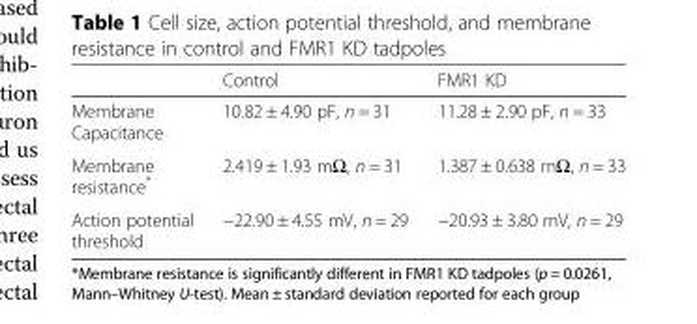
<table><thead><tr><td></td><td>Control</td><td>FMR1 KD</td></tr></thead><tbody><tr><td>Membrane Capacitance</td><td>10.82 ± 4.90 pF, n = 31</td><td>11.28 ± 2.90 pF, n = 33</td></tr><tr><td>Membrane resistance*</td><td>2.419 ± 1.93 mΩ, n = 31</td><td>1.387 ± 0.638 mΩ, n = 33</td></tr><tr><td>Action potential threshold</td><td>−22.90 ± 4.55 mV, n = 29</td><td>−20.93 ± 3.80 mV, n = 29</td></tr></tbody></table>